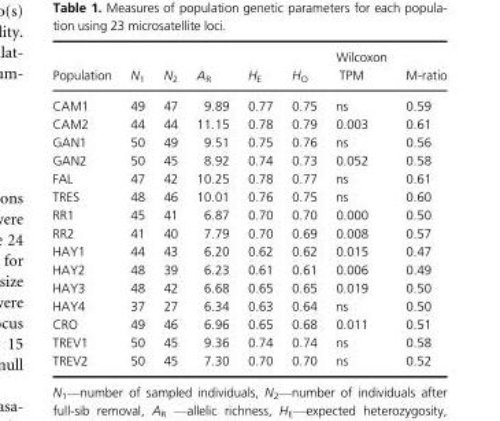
<table><thead><tr><td>Population</td><td>N<sub>1</sub></td><td>N<sub>2</sub></td><td>A<sub>R</sub></td><td>H<sub>E</sub></td><td>H<sub>O</sub></td><td>Wilcoxon TPM</td><td>M-ratio</td></tr></thead><tbody><tr><td>CAM1</td><td>49</td><td>47</td><td>9.89</td><td>0.77</td><td>0.75</td><td>ns</td><td>0.59</td></tr><tr><td>CAM2</td><td>44</td><td>44</td><td>11.15</td><td>0.78</td><td>0.79</td><td>0.003</td><td>0.61</td></tr><tr><td>GAN1</td><td>50</td><td>49</td><td>9.51</td><td>0.75</td><td>0.76</td><td>ns</td><td>0.56</td></tr><tr><td>GAN2</td><td>50</td><td>45</td><td>8.92</td><td>0.74</td><td>0.73</td><td>0.052</td><td>0.58</td></tr><tr><td>FAL</td><td>47</td><td>42</td><td>10.25</td><td>0.78</td><td>0.77</td><td>ns</td><td>0.61</td></tr><tr><td>TRES</td><td>48</td><td>46</td><td>10.01</td><td>0.76</td><td>0.75</td><td>ns</td><td>0.60</td></tr><tr><td>RR1</td><td>45</td><td>41</td><td>6.87</td><td>0.70</td><td>0.70</td><td>0.000</td><td>0.50</td></tr><tr><td>RR2</td><td>41</td><td>40</td><td>7.79</td><td>0.70</td><td>0.69</td><td>0.008</td><td>0.57</td></tr><tr><td>HAY1</td><td>44</td><td>43</td><td>6.20</td><td>0.62</td><td>0.62</td><td>0.015</td><td>0.47</td></tr><tr><td>HAY2</td><td>48</td><td>39</td><td>6.23</td><td>0.61</td><td>0.61</td><td>0.006</td><td>0.49</td></tr><tr><td>HAY3</td><td>48</td><td>42</td><td>6.68</td><td>0.65</td><td>0.65</td><td>0.019</td><td>0.50</td></tr><tr><td>HAY4</td><td>37</td><td>27</td><td>6.34</td><td>0.63</td><td>0.64</td><td>ns</td><td>0.50</td></tr><tr><td>CRO</td><td>49</td><td>46</td><td>6.96</td><td>0.65</td><td>0.68</td><td>0.011</td><td>0.51</td></tr><tr><td>TREV1</td><td>50</td><td>45</td><td>9.36</td><td>0.74</td><td>0.74</td><td>ns</td><td>0.58</td></tr><tr><td>TREV2</td><td>50</td><td>45</td><td>7.30</td><td>0.70</td><td>0.70</td><td>ns</td><td>0.52</td></tr></tbody></table>